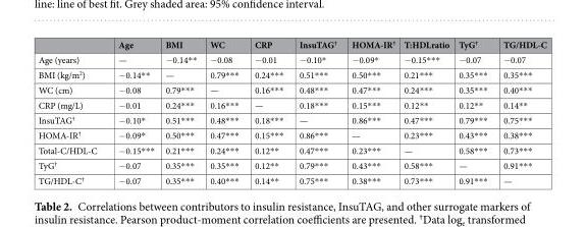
<table><thead><tr><td></td><td>Age</td><td>BMI</td><td>WC</td><td>CRP</td><td>InsuTAG<sup>†</sup></td><td>HOMA-IR<sup>†</sup></td><td>T:HDLratio</td><td>TyG<sup>†</sup></td><td>TG/HDL-C</td></tr></thead><tbody><tr><td>Age (years)</td><td>—</td><td>−0.14**</td><td>−0.08</td><td>−0.01</td><td>−0.10*</td><td>−0.09*</td><td>−0.15***</td><td>−0.07</td><td>−0.07</td></tr><tr><td>BMI (kg/m<sup>2</sup>)</td><td>−0.14**</td><td>—</td><td>0.79***</td><td>0.24***</td><td>0.51***</td><td>0.50***</td><td>0.21***</td><td>0.35***</td><td>0.35***</td></tr><tr><td>WC (cm)</td><td>−0.08</td><td>0.79***</td><td>—</td><td>0.16***</td><td>0.48***</td><td>0.47***</td><td>0.24***</td><td>0.35***</td><td>0.40***</td></tr><tr><td>CRP (mg/L)</td><td>−0.01</td><td>0.24***</td><td>0.16***</td><td>—</td><td>0.18***</td><td>0.15***</td><td>0.12**</td><td>0.12**</td><td>0.14**</td></tr><tr><td>InsuTAG<sup>†</sup></td><td>−0.10*</td><td>0.51***</td><td>0.48***</td><td>0.18***</td><td>—</td><td>0.86***</td><td>0.47***</td><td>0.79***</td><td>0.75***</td></tr><tr><td>HOMA-IR<sup>†</sup></td><td>−0.09*</td><td>0.50***</td><td>0.47***</td><td>0.15***</td><td>0.86***</td><td>—</td><td>0.23***</td><td>0.43***</td><td>0.38***</td></tr><tr><td>Total-C/HDL-C</td><td>−0.15***</td><td>0.21***</td><td>0.24***</td><td>0.12**</td><td>0.47***</td><td>0.23***</td><td>—</td><td>0.58***</td><td>0.73***</td></tr><tr><td>TyG<sup>†</sup></td><td>−0.07</td><td>0.35***</td><td>0.35***</td><td>0.12**</td><td>0.79***</td><td>0.43***</td><td>0.58***</td><td>—</td><td>0.91***</td></tr><tr><td>TG/HDL-C<sup>†</sup></td><td>−0.07</td><td>0.35***</td><td>0.40***</td><td>0.14**</td><td>0.75***</td><td>0.38***</td><td>0.73***</td><td>0.91***</td><td>—</td></tr></tbody></table>